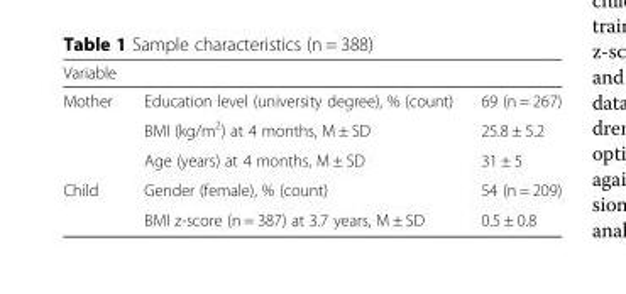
<table><thead><tr><td>Variable</td><td></td><td></td></tr></thead><tbody><tr><td rowspan="3">Mother</td><td>Education level (university degree), % (count)</td><td>69 (n = 267)</td></tr><tr><td>BMI (kg/m<sup>2</sup>) at 4 months, M ± SD</td><td>25.8 ± 5.2</td></tr><tr><td>Age (years) at 4 months, M ± SD</td><td>31 ± 5</td></tr><tr><td rowspan="2">Child</td><td>Gender (female), % (count)</td><td>54 (n = 209)</td></tr><tr><td>BMI z-score (n = 387) at 3.7 years, M ± SD</td><td>0.5 ± 0.8</td></tr></tbody></table>